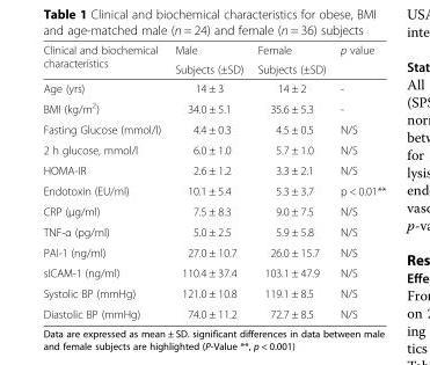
<table><thead><tr><td rowspan="2">Clinical and biochemical characteristics</td><td rowspan="2">Male Subjects (±SD)</td><td rowspan="2">Female Subjects (±SD)</td><td rowspan="2">p value</td></tr><tr></tr></thead><tbody><tr><td>Age (yrs)</td><td>14 ± 3</td><td>14 ± 2</td><td>-</td></tr><tr><td>BMI (kg/m<sup>2</sup>)</td><td>34.0 ± 5.1</td><td>35.6 ± 5.3</td><td>-</td></tr><tr><td>Fasting Glucose (mmol/l)</td><td>4.4 ± 0.3</td><td>4.5 ± 0.5</td><td>N/S</td></tr><tr><td>2 h glucose, mmol/l</td><td>6.0 ± 1.0</td><td>5.7 ± 1.0</td><td>N/S</td></tr><tr><td>HOMA-IR</td><td>2.6 ± 1.2</td><td>3.3 ± 2.1</td><td>N/S</td></tr><tr><td>Endotoxin (EU/ml)</td><td>10.1 ± 5.4</td><td>5.3 ± 3.7</td><td>p &lt; 0.01**</td></tr><tr><td>CRP (μg/ml)</td><td>7.5 ± 8.3</td><td>9.0 ± 7.5</td><td>N/S</td></tr><tr><td>TNF-α (pg/ml)</td><td>5.0 ± 2.5</td><td>5.9 ± 5.8</td><td>N/S</td></tr><tr><td>PAI-1 (ng/ml)</td><td>27.0 ± 10.7</td><td>26.0 ± 15.7</td><td>N/S</td></tr><tr><td>sICAM-1 (ng/ml)</td><td>110.4 ± 37.4</td><td>103.1 ± 47.9</td><td>N/S</td></tr><tr><td>Systolic BP (mmHg)</td><td>121.0 ± 10.8</td><td>119.1 ± 8.5</td><td>N/S</td></tr><tr><td>Diastolic BP (mmHg)</td><td>74.0 ± 11.2</td><td>72.7 ± 8.5</td><td>N/S</td></tr></tbody></table>